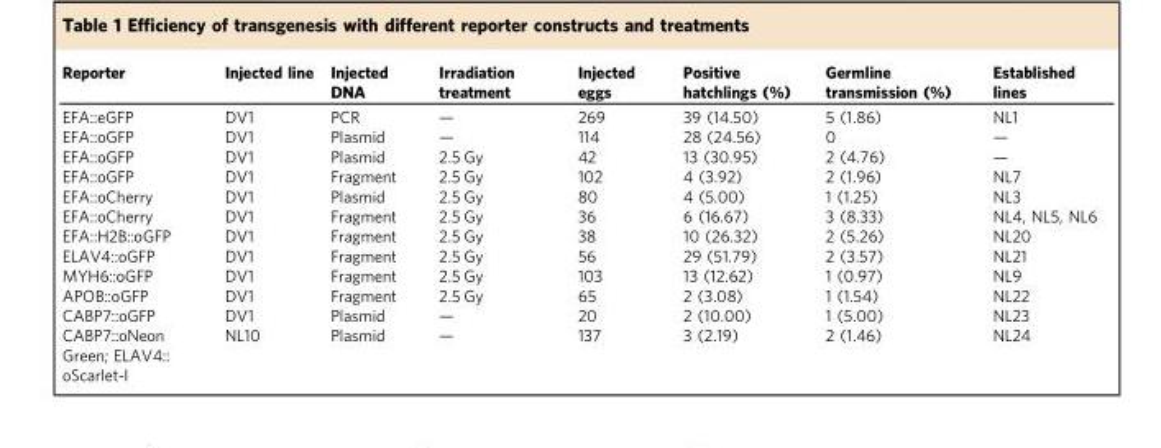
<table><thead><tr><td>Reporter</td><td>Injected line</td><td>Injected DNA</td><td>Irradiation treatment</td><td>Injected eggs</td><td>Positive hatchlings (%)</td><td>Germline transmission (%)</td><td>Established lines</td></tr></thead><tbody><tr><td>EFA::eGFP</td><td>DV1</td><td>PCR</td><td>—</td><td>269</td><td>39 (14.50)</td><td>5 (1.86)</td><td>NL1</td></tr><tr><td>EFA::oGFP</td><td>DV1</td><td>Plasmid</td><td>—</td><td>114</td><td>28 (24.56)</td><td>0</td><td>—</td></tr><tr><td>EFA::oGFP</td><td>DV1</td><td>Plasmid</td><td>2.5 Gy</td><td>42</td><td>13 (30.95)</td><td>2 (4.76)</td><td>—</td></tr><tr><td>EFA::oGFP</td><td>DV1</td><td>Fragment</td><td>2.5 Gy</td><td>102</td><td>4 (3.92)</td><td>2 (1.96)</td><td>NL7</td></tr><tr><td>EFA::oCherry</td><td>DV1</td><td>Plasmid</td><td>2.5 Gy</td><td>80</td><td>4 (5.00)</td><td>1 (1.25)</td><td>NL3</td></tr><tr><td>EFA::oCherry</td><td>DV1</td><td>Fragment</td><td>2.5 Gy</td><td>36</td><td>6 (16.67)</td><td>3 (8.33)</td><td>NL4, NL5, NL6</td></tr><tr><td>EFA::H2B::oGFP</td><td>DV1</td><td>Fragment</td><td>2.5 Gy</td><td>38</td><td>10 (26.32)</td><td>2 (5.26)</td><td>NL20</td></tr><tr><td>ELAV4::oGFP</td><td>DV1</td><td>Fragment</td><td>2.5 Gy</td><td>56</td><td>29 (51.79)</td><td>2 (3.57)</td><td>NL21</td></tr><tr><td>MYH6::oGFP</td><td>DV1</td><td>Fragment</td><td>2.5 Gy</td><td>103</td><td>13 (12.62)</td><td>1 (0.97)</td><td>NL9</td></tr><tr><td>APOB::oGFP</td><td>DV1</td><td>Fragment</td><td>2.5 Gy</td><td>65</td><td>2 (3.08)</td><td>1 (1.54)</td><td>NL22</td></tr><tr><td>CABP7::oGFP</td><td>DV1</td><td>Plasmid</td><td>—</td><td>20</td><td>2 (10.00)</td><td>1 (5.00)</td><td>NL23</td></tr><tr><td>CABP7::oNeon Green; ELAV4:: oScarlet-I</td><td>NL10</td><td>Plasmid</td><td>—</td><td>137</td><td>3 (2.19)</td><td>2 (1.46)</td><td>NL24</td></tr></tbody></table>